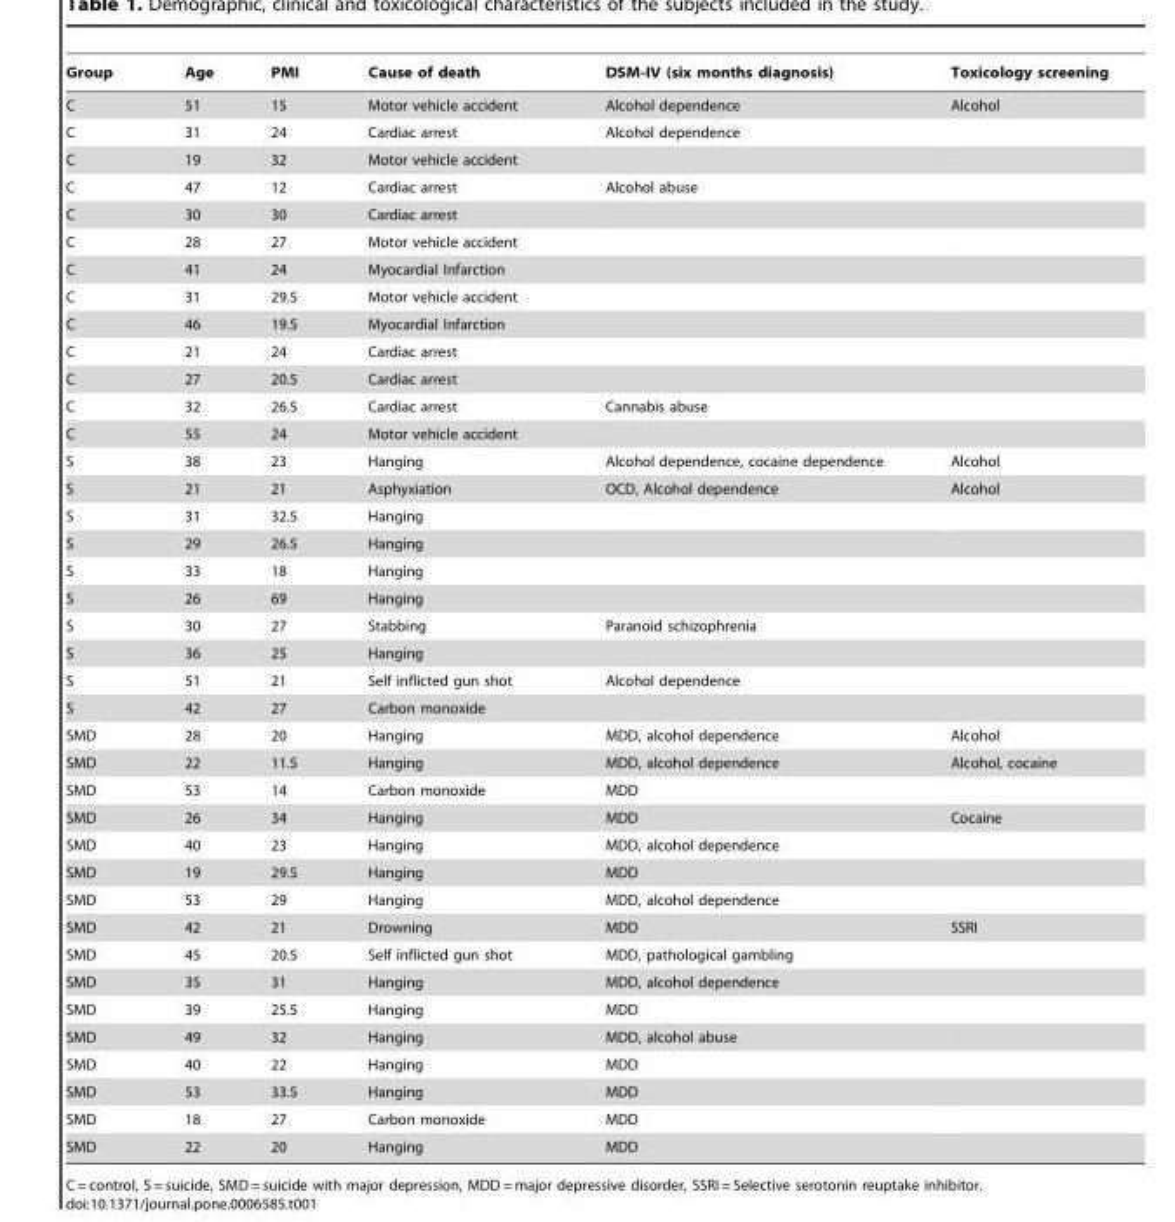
<table><thead><tr><td>Group</td><td>Age</td><td>PMI</td><td>Cause of death</td><td>DSM-IV (six months diagnosis)</td><td>Toxicology screening</td></tr></thead><tbody><tr><td>C</td><td>51</td><td>15</td><td>Motor vehicle accident</td><td>Alcohol dependence</td><td>Alcohol</td></tr><tr><td>C</td><td>31</td><td>24</td><td>Cardiac arrest</td><td>Alcohol dependence</td><td></td></tr><tr><td>C</td><td>19</td><td>32</td><td>Motor vehicle accident</td><td></td><td></td></tr><tr><td>C</td><td>47</td><td>12</td><td>Cardiac arrest</td><td>Alcohol abuse</td><td></td></tr><tr><td>C</td><td>30</td><td>30</td><td>Cardiac arrest</td><td></td><td></td></tr><tr><td>C</td><td>28</td><td>27</td><td>Motor vehicle accident</td><td></td><td></td></tr><tr><td>C</td><td>41</td><td>24</td><td>Myocardial Infarction</td><td></td><td></td></tr><tr><td>C</td><td>31</td><td>29.5</td><td>Motor vehicle accident</td><td></td><td></td></tr><tr><td>C</td><td>46</td><td>19.5</td><td>Myocardial Infarction</td><td></td><td></td></tr><tr><td>C</td><td>21</td><td>24</td><td>Cardiac arrest</td><td></td><td></td></tr><tr><td>C</td><td>27</td><td>20.5</td><td>Cardiac arrest</td><td></td><td></td></tr><tr><td>C</td><td>32</td><td>26.5</td><td>Cardiac arrest</td><td>Cannabis abuse</td><td></td></tr><tr><td>C</td><td>55</td><td>24</td><td>Motor vehicle accident</td><td></td><td></td></tr><tr><td>S</td><td>38</td><td>23</td><td>Hanging</td><td>Alcohol dependence, cocaine dependence</td><td>Alcohol</td></tr><tr><td>S</td><td>21</td><td>21</td><td>Asphyxiation</td><td>OCD, Alcohol dependence</td><td>Alcohol</td></tr><tr><td>S</td><td>31</td><td>32.5</td><td>Hanging</td><td></td><td></td></tr><tr><td>S</td><td>29</td><td>26.5</td><td>Hanging</td><td></td><td></td></tr><tr><td>S</td><td>33</td><td>18</td><td>Hanging</td><td></td><td></td></tr><tr><td>S</td><td>26</td><td>69</td><td>Hanging</td><td></td><td></td></tr><tr><td>S</td><td>30</td><td>27</td><td>Stabbing</td><td>Paranoid schizophrenia</td><td></td></tr><tr><td>S</td><td>36</td><td>25</td><td>Hanging</td><td></td><td></td></tr><tr><td>S</td><td>51</td><td>21</td><td>Self inflicted gun shot</td><td>Alcohol dependence</td><td></td></tr><tr><td>S</td><td>42</td><td>27</td><td>Carbon monoxide</td><td></td><td></td></tr><tr><td>SMD</td><td>28</td><td>20</td><td>Hanging</td><td>MDD, alcohol dependence</td><td>Alcohol</td></tr><tr><td>SMD</td><td>22</td><td>11.5</td><td>Hanging</td><td>MDD, alcohol dependence</td><td>Alcohol, cocaine</td></tr><tr><td>SMD</td><td>53</td><td>14</td><td>Carbon monoxide</td><td>MDD</td><td></td></tr><tr><td>SMD</td><td>26</td><td>34</td><td>Hanging</td><td>MDD</td><td>Cocaine</td></tr><tr><td>SMD</td><td>40</td><td>23</td><td>Hanging</td><td>MDD, alcohol dependence</td><td></td></tr><tr><td>SMD</td><td>19</td><td>29.5</td><td>Hanging</td><td>MDD</td><td></td></tr><tr><td>SMD</td><td>53</td><td>29</td><td>Hanging</td><td>MDD, alcohol dependence</td><td></td></tr><tr><td>SMD</td><td>42</td><td>21</td><td>Drowning</td><td>MDD</td><td>SSRI</td></tr><tr><td>SMD</td><td>45</td><td>20.5</td><td>Self inflicted gun shot</td><td>MDD, pathological gambling</td><td></td></tr><tr><td>SMD</td><td>35</td><td>31</td><td>Hanging</td><td>MDD, alcohol dependence</td><td></td></tr><tr><td>SMD</td><td>39</td><td>25.5</td><td>Hanging</td><td>MDD</td><td></td></tr><tr><td>SMD</td><td>49</td><td>32</td><td>Hanging</td><td>MDD, alcohol abuse</td><td></td></tr><tr><td>SMD</td><td>40</td><td>22</td><td>Hanging</td><td>MDD</td><td></td></tr><tr><td>SMD</td><td>53</td><td>33.5</td><td>Hanging</td><td>MDD</td><td></td></tr><tr><td>SMD</td><td>18</td><td>27</td><td>Carbon monoxide</td><td>MDD</td><td></td></tr><tr><td>SMD</td><td>22</td><td>20</td><td>Hanging</td><td>MDD</td><td></td></tr></tbody></table>